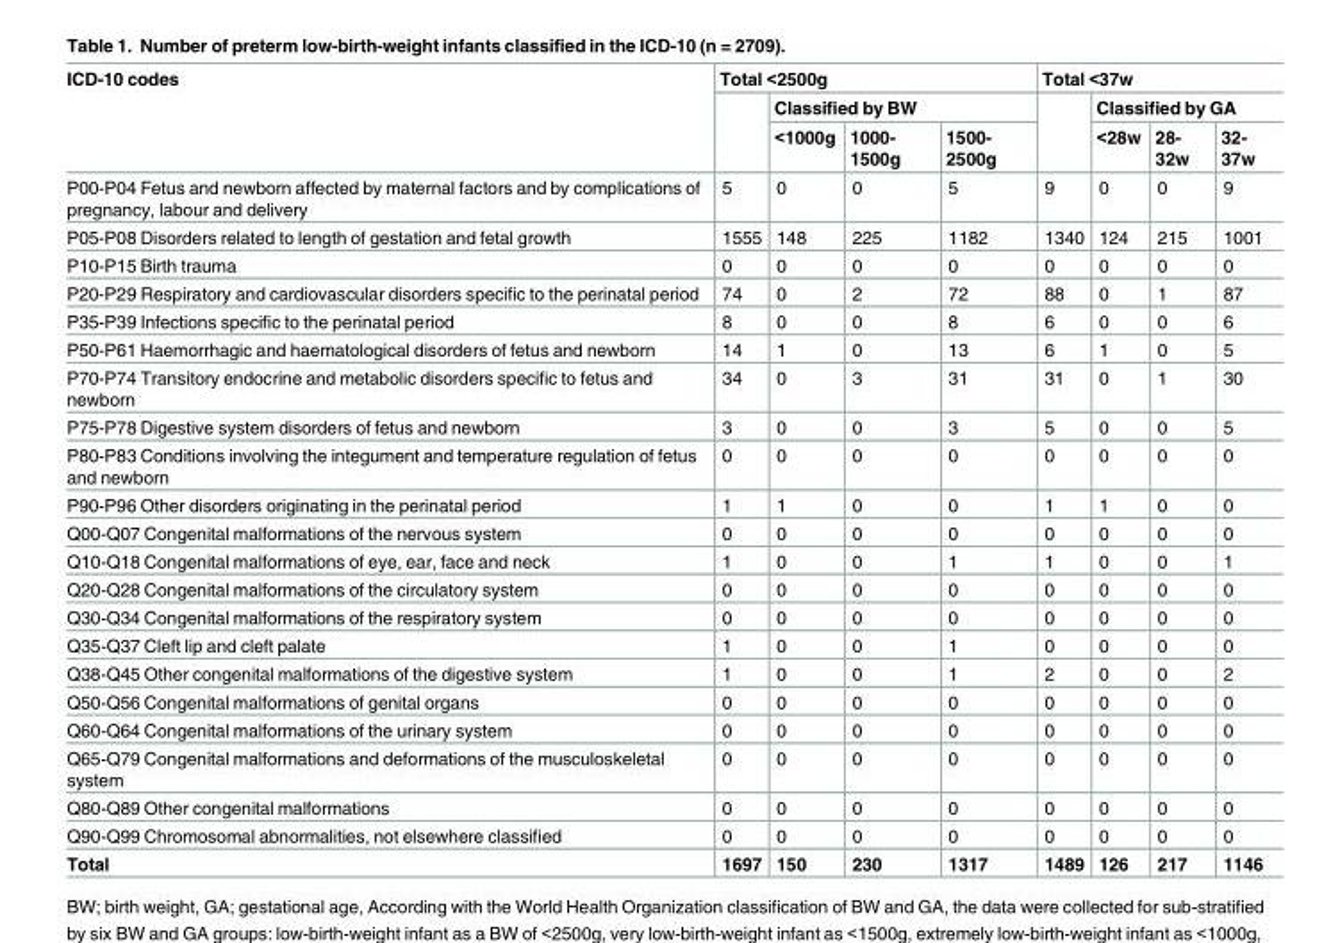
<table><thead><tr><td rowspan="3">ICD-10 codes</td><td colspan="4">Total &lt;2500g</td><td colspan="4">Total &lt;37w</td></tr><tr><td rowspan="2"></td><td colspan="3">Classified by BW</td><td rowspan="2"></td><td colspan="3">Classified by GA</td></tr><tr><td>&lt;1000g</td><td>1000- 1500g</td><td>1500- 2500g</td><td>&lt;28w</td><td>28- 32w</td><td>32- 37w</td></tr></thead><tbody><tr><td>P00-P04 Fetus and newborn affected by maternal factors and by complications of pregnancy, labour and delivery</td><td>5</td><td>0</td><td>0</td><td>5</td><td>9</td><td>0</td><td>0</td><td>9</td></tr><tr><td>P05-P08 Disorders related to length of gestation and fetal growth</td><td>1555</td><td>148</td><td>225</td><td>1182</td><td>1340</td><td>124</td><td>215</td><td>1001</td></tr><tr><td>P10-P15 Birth trauma</td><td>0</td><td>0</td><td>0</td><td>0</td><td>0</td><td>0</td><td>0</td><td>0</td></tr><tr><td>P20-P29 Respiratory and cardiovascular disorders specific to the perinatal period</td><td>74</td><td>0</td><td>2</td><td>72</td><td>88</td><td>0</td><td>1</td><td>87</td></tr><tr><td>P35-P39 Infections specific to the perinatal period</td><td>8</td><td>0</td><td>0</td><td>8</td><td>6</td><td>0</td><td>0</td><td>6</td></tr><tr><td>P50-P61 Haemorrhagic and haematological disorders of fetus and newborn</td><td>14</td><td>1</td><td>0</td><td>13</td><td>6</td><td>1</td><td>0</td><td>5</td></tr><tr><td>P70-P74 Transitory endocrine and metabolic disorders specific to fetus and newborn</td><td>34</td><td>0</td><td>3</td><td>31</td><td>31</td><td>0</td><td>1</td><td>30</td></tr><tr><td>P75-P78 Digestive system disorders of fetus and newborn</td><td>3</td><td>0</td><td>0</td><td>3</td><td>5</td><td>0</td><td>0</td><td>5</td></tr><tr><td>P80-P83 Conditions involving the integument and temperature regulation of fetus and newborn</td><td>0</td><td>0</td><td>0</td><td>0</td><td>0</td><td>0</td><td>0</td><td>0</td></tr><tr><td>P90-P96 Other disorders originating in the perinatal period</td><td>1</td><td>1</td><td>0</td><td>0</td><td>1</td><td>1</td><td>0</td><td>0</td></tr><tr><td>Q00-Q07 Congenital malformations of the nervous system</td><td>0</td><td>0</td><td>0</td><td>0</td><td>0</td><td>0</td><td>0</td><td>0</td></tr><tr><td>Q10-Q18 Congenital malformations of eye, ear, face and neck</td><td>1</td><td>0</td><td>0</td><td>1</td><td>1</td><td>0</td><td>0</td><td>1</td></tr><tr><td>Q20-Q28 Congenital malformations of the circulatory system</td><td>0</td><td>0</td><td>0</td><td>0</td><td>0</td><td>0</td><td>0</td><td>0</td></tr><tr><td>Q30-Q34 Congenital malformations of the respiratory system</td><td>0</td><td>0</td><td>0</td><td>0</td><td>0</td><td>0</td><td>0</td><td>0</td></tr><tr><td>Q35-Q37 Cleft lip and cleft palate</td><td>1</td><td>0</td><td>0</td><td>1</td><td>0</td><td>0</td><td>0</td><td>0</td></tr><tr><td>Q38-Q45 Other congenital malformations of the digestive system</td><td>1</td><td>0</td><td>0</td><td>1</td><td>2</td><td>0</td><td>0</td><td>2</td></tr><tr><td>Q50-Q56 Congenital malformations of genital organs</td><td>0</td><td>0</td><td>0</td><td>0</td><td>0</td><td>0</td><td>0</td><td>0</td></tr><tr><td>Q60-Q64 Congenital malformations of the urinary system</td><td>0</td><td>0</td><td>0</td><td>0</td><td>0</td><td>0</td><td>0</td><td>0</td></tr><tr><td>Q65-Q79 Congenital malformations and deformations of the musculoskeletal system</td><td>0</td><td>0</td><td>0</td><td>0</td><td>0</td><td>0</td><td>0</td><td>0</td></tr><tr><td>Q80-Q89 Other congenital malformations</td><td>0</td><td>0</td><td>0</td><td>0</td><td>0</td><td>0</td><td>0</td><td>0</td></tr><tr><td>Q90-Q99 Chromosomal abnormalities, not elsewhere classified</td><td>0</td><td>0</td><td>0</td><td>0</td><td>0</td><td>0</td><td>0</td><td>0</td></tr><tr><td>Total</td><td>1697</td><td>150</td><td>230</td><td>1317</td><td>1489</td><td>126</td><td>217</td><td>1146</td></tr></tbody></table>